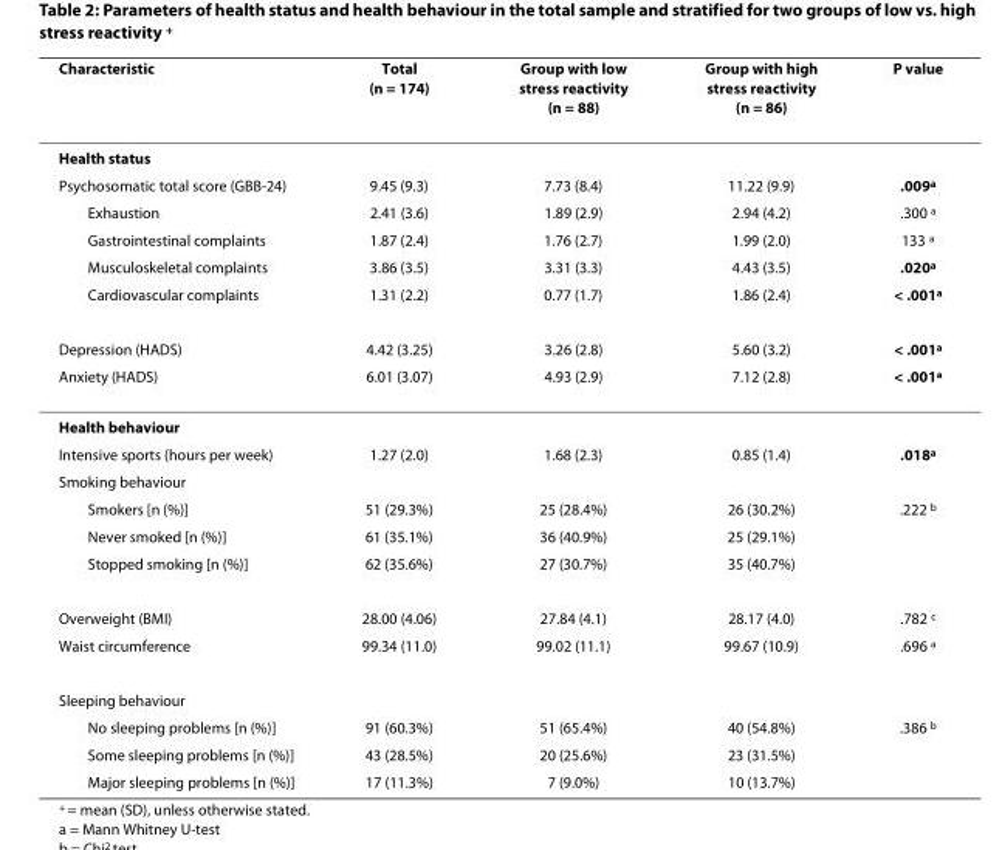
<table><thead><tr><td>Characteristic</td><td>Total (n = 174)</td><td>Group with low stress reactivity (n = 88)</td><td>Group with high stress reactivity (n = 86)</td><td>P value</td></tr></thead><tbody><tr><td colspan="5">Health status</td></tr><tr><td>Psychosomatic total score (GBB-24)</td><td>9.45 (9.3)</td><td>7.73 (8.4)</td><td>11.22 (9.9)</td><td>.009<sup>a</sup></td></tr><tr><td>Exhaustion</td><td>2.41 (3.6)</td><td>1.89 (2.9)</td><td>2.94 (4.2)</td><td>.300 <sup>a</sup></td></tr><tr><td>Gastrointestinal complaints</td><td>1.87 (2.4)</td><td>1.76 (2.7)</td><td>1.99 (2.0)</td><td>133 <sup>a</sup></td></tr><tr><td>Musculoskeletal complaints</td><td>3.86 (3.5)</td><td>3.31 (3.3)</td><td>4.43 (3.5)</td><td>.020<sup>a</sup></td></tr><tr><td>Cardiovascular complaints</td><td>1.31 (2.2)</td><td>0.77 (1.7)</td><td>1.86 (2.4)</td><td>&lt; .001<sup>a</sup></td></tr><tr><td>Depression (HADS)</td><td>4.42 (3.25)</td><td>3.26 (2.8)</td><td>5.60 (3.2)</td><td>&lt; .001<sup>a</sup></td></tr><tr><td>Anxiety (HADS)</td><td>6.01 (3.07)</td><td>4.93 (2.9)</td><td>7.12 (2.8)</td><td>&lt; .001<sup>a</sup></td></tr><tr><td colspan="5">Health behaviour</td></tr><tr><td>Intensive sports (hours per week)</td><td>1.27 (2.0)</td><td>1.68 (2.3)</td><td>0.85 (1.4)</td><td>.018<sup>a</sup></td></tr><tr><td colspan="5">Smoking behaviour</td></tr><tr><td>Smokers [n (%)]</td><td>51 (29.3%)</td><td>25 (28.4%)</td><td>26 (30.2%)</td><td>.222 <sup>b</sup></td></tr><tr><td>Never smoked [n (%)]</td><td>61 (35.1%)</td><td>36 (40.9%)</td><td>25 (29.1%)</td><td></td></tr><tr><td>Stopped smoking [n (%)]</td><td>62 (35.6%)</td><td>27 (30.7%)</td><td>35 (40.7%)</td><td></td></tr><tr><td>Overweight (BMI)</td><td>28.00 (4.06)</td><td>27.84 (4.1)</td><td>28.17 (4.0)</td><td>.782 <sup>c</sup></td></tr><tr><td>Waist circumference</td><td>99.34 (11.0)</td><td>99.02 (11.1)</td><td>99.67 (10.9)</td><td>.696 <sup>a</sup></td></tr><tr><td colspan="5">Sleeping behaviour</td></tr><tr><td>No sleeping problems [n (%)]</td><td>91 (60.3%)</td><td>51 (65.4%)</td><td>40 (54.8%)</td><td>.386 <sup>b</sup></td></tr><tr><td>Some sleeping problems [n (%)]</td><td>43 (28.5%)</td><td>20 (25.6%)</td><td>23 (31.5%)</td><td></td></tr><tr><td>Major sleeping problems [n (%)]</td><td>17 (11.3%)</td><td>7 (9.0%)</td><td>10 (13.7%)</td><td></td></tr></tbody></table>